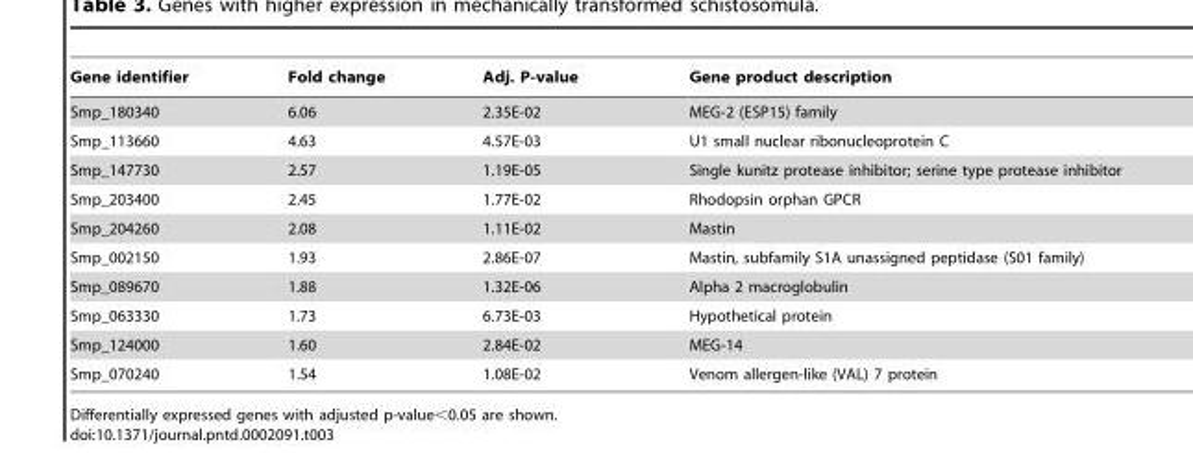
<table><thead><tr><td>Gene identifier</td><td>Fold change</td><td>Adj. P-value</td><td>Gene product description</td></tr></thead><tbody><tr><td>Smp_180340</td><td>6.06</td><td>2.35E-02</td><td>MEG-2 (ESP15) family</td></tr><tr><td>Smp_113660</td><td>4.63</td><td>4.57E-03</td><td>U1 small nuclear ribonucleoprotein C</td></tr><tr><td>Smp_147730</td><td>2.57</td><td>1.19E-05</td><td>Single kunitz protease inhibitor; serine type protease inhibitor</td></tr><tr><td>Smp_203400</td><td>2.45</td><td>1.77E-02</td><td>Rhodopsin orphan GPCR</td></tr><tr><td>Smp_204260</td><td>2.08</td><td>1.11E-02</td><td>Mastin</td></tr><tr><td>Smp_002150</td><td>1.93</td><td>2.86E-07</td><td>Mastin, subfamily S1A unassigned peptidase (S01 family)</td></tr><tr><td>Smp_089670</td><td>1.88</td><td>1.32E-06</td><td>Alpha 2 macroglobulin</td></tr><tr><td>Smp_063330</td><td>1.73</td><td>6.73E-03</td><td>Hypothetical protein</td></tr><tr><td>Smp_124000</td><td>1.60</td><td>2.84E-02</td><td>MEG-14</td></tr><tr><td>Smp_070240</td><td>1.54</td><td>1.08E-02</td><td>Venom allergen-like (VAL) 7 protein</td></tr></tbody></table>